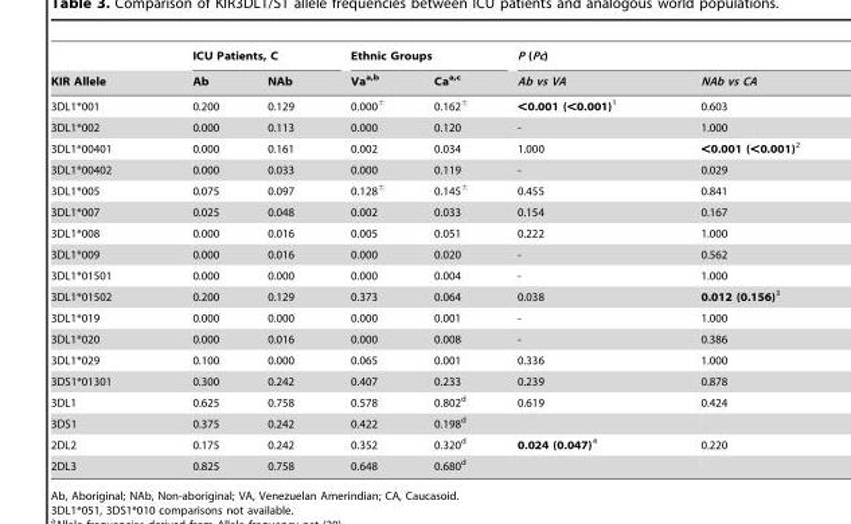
<table><thead><tr><td rowspan="2">KIR Allele</td><td colspan="2">ICU Patients, C</td><td colspan="2">Ethnic Groups</td><td colspan="2">P (Pc)</td></tr><tr><td>Ab</td><td>NAb</td><td>Va<sup>a,</sup>b</td><td>Ca<sup>a,</sup>c</td><td>Ab vs VA</td><td>NAb vs CA</td></tr></thead><tbody><tr><td>3DL1*001</td><td>0.200</td><td>0.129</td><td>0.000±</td><td>0.162±</td><td>&lt;0.001 (&lt;0.001)1</td><td>0.603</td></tr><tr><td>3DL1*002</td><td>0.000</td><td>0.113</td><td>0.000</td><td>0.120</td><td>-</td><td>1.000</td></tr><tr><td>3DL1*00401</td><td>0.000</td><td>0.161</td><td>0.002</td><td>0.034</td><td>1.000</td><td>&lt;0.001 (&lt;0.001)2</td></tr><tr><td>3DL1*00402</td><td>0.000</td><td>0.033</td><td>0.000</td><td>0.119</td><td>-</td><td>0.029</td></tr><tr><td>3DL1*005</td><td>0.075</td><td>0.097</td><td>0.128±</td><td>0.145±</td><td>0.455</td><td>0.841</td></tr><tr><td>3DL1*007</td><td>0.025</td><td>0.048</td><td>0.002</td><td>0.033</td><td>0.154</td><td>0.167</td></tr><tr><td>3DL1*008</td><td>0.000</td><td>0.016</td><td>0.005</td><td>0.051</td><td>0.222</td><td>1.000</td></tr><tr><td>3DL1*009</td><td>0.000</td><td>0.016</td><td>0.000</td><td>0.020</td><td>-</td><td>0.562</td></tr><tr><td>3DL1*01501</td><td>0.000</td><td>0.000</td><td>0.000</td><td>0.004</td><td>-</td><td>1.000</td></tr><tr><td>3DL1*01502</td><td>0.200</td><td>0.129</td><td>0.373</td><td>0.064</td><td>0.038</td><td>0.012 (0.156)3</td></tr><tr><td>3DL1*019</td><td>0.000</td><td>0.000</td><td>0.000</td><td>0.001</td><td>-</td><td>1.000</td></tr><tr><td>3DL1*020</td><td>0.000</td><td>0.016</td><td>0.000</td><td>0.008</td><td>-</td><td>0.386</td></tr><tr><td>3DL1*029</td><td>0.100</td><td>0.000</td><td>0.065</td><td>0.001</td><td>0.336</td><td>1.000</td></tr><tr><td>3DS1*01301</td><td>0.300</td><td>0.242</td><td>0.407</td><td>0.233</td><td>0.239</td><td>0.878</td></tr><tr><td>3DL1</td><td>0.625</td><td>0.758</td><td>0.578</td><td>0.802<sup>d</sup></td><td>0.619</td><td>0.424</td></tr><tr><td>3DS1</td><td>0.375</td><td>0.242</td><td>0.422</td><td>0.198<sup>d</sup></td><td></td><td></td></tr><tr><td>2DL2</td><td>0.175</td><td>0.242</td><td>0.352</td><td>0.320<sup>d</sup></td><td>0.024 (0.047)4</td><td>0.220</td></tr><tr><td>2DL3</td><td>0.825</td><td>0.758</td><td>0.648</td><td>0.680<sup>d</sup></td><td></td><td></td></tr></tbody></table>